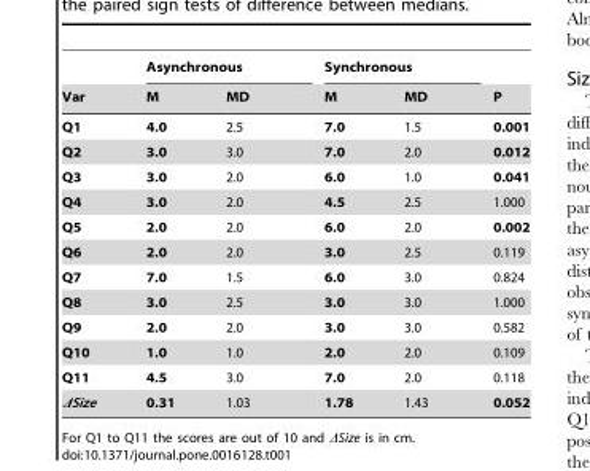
<table><thead><tr><td rowspan="2">Var</td><td colspan="2">Asynchronous</td><td colspan="2">Synchronous</td><td rowspan="2">P</td></tr><tr><td>M</td><td>MD</td><td>M</td><td>MD</td></tr></thead><tbody><tr><td>Q1</td><td>4.0</td><td>2.5</td><td>7.0</td><td>1.5</td><td>0.001</td></tr><tr><td>Q2</td><td>3.0</td><td>3.0</td><td>7.0</td><td>2.0</td><td>0.012</td></tr><tr><td>Q3</td><td>3.0</td><td>2.0</td><td>6.0</td><td>1.0</td><td>0.041</td></tr><tr><td>Q4</td><td>3.0</td><td>2.0</td><td>4.5</td><td>2.5</td><td>1.000</td></tr><tr><td>Q5</td><td>2.0</td><td>2.0</td><td>6.0</td><td>2.0</td><td>0.002</td></tr><tr><td>Q6</td><td>2.0</td><td>2.0</td><td>3.0</td><td>2.5</td><td>0.119</td></tr><tr><td>Q7</td><td>7.0</td><td>1.5</td><td>6.0</td><td>3.0</td><td>0.824</td></tr><tr><td>Q8</td><td>3.0</td><td>2.5</td><td>3.0</td><td>3.0</td><td>1.000</td></tr><tr><td>Q9</td><td>2.0</td><td>2.0</td><td>3.0</td><td>3.0</td><td>0.582</td></tr><tr><td>Q10</td><td>1.0</td><td>1.0</td><td>2.0</td><td>2.0</td><td>0.109</td></tr><tr><td>Q11</td><td>4.5</td><td>3.0</td><td>7.0</td><td>2.0</td><td>0.118</td></tr><tr><td>ΔSize</td><td>0.31</td><td>1.03</td><td>1.78</td><td>1.43</td><td>0.052</td></tr></tbody></table>